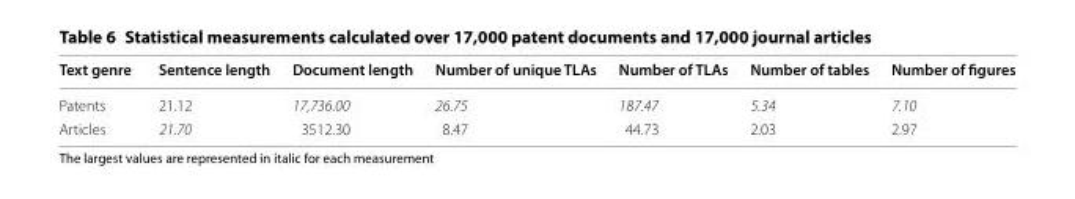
<table><thead><tr><td>Text genre</td><td>Sentence length</td><td>Document length</td><td>Number of unique TLAs</td><td>Number of TLAs</td><td>Number of tables</td><td>Number of figures</td></tr></thead><tbody><tr><td>Patents</td><td>21.12</td><td>17,736.00</td><td>26.75</td><td>187.47</td><td>5.34</td><td>7.10</td></tr><tr><td>Articles</td><td>21.70</td><td>3512.30</td><td>8.47</td><td>44.73</td><td>2.03</td><td>2.97</td></tr></tbody></table>